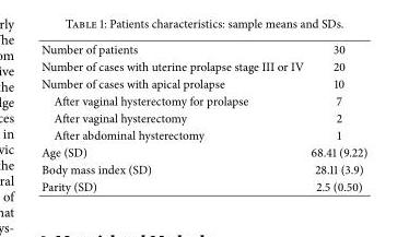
<table><tbody><tr><td>Number of patients</td><td>30</td></tr><tr><td>Number of cases with uterine prolapse stage III or IV</td><td>20</td></tr><tr><td>Number of cases with apical prolapse</td><td>10</td></tr><tr><td>After vaginal hysterectomy for prolapse</td><td>7</td></tr><tr><td>After vaginal hysterectomy</td><td>2</td></tr><tr><td>After abdominal hysterectomy</td><td>1</td></tr><tr><td>Age (SD)</td><td>68.41 (9.22)</td></tr><tr><td>Body mass index (SD)</td><td>28.11 (3.9)</td></tr><tr><td>Parity (SD)</td><td>2.5 (0.50)</td></tr></tbody></table>